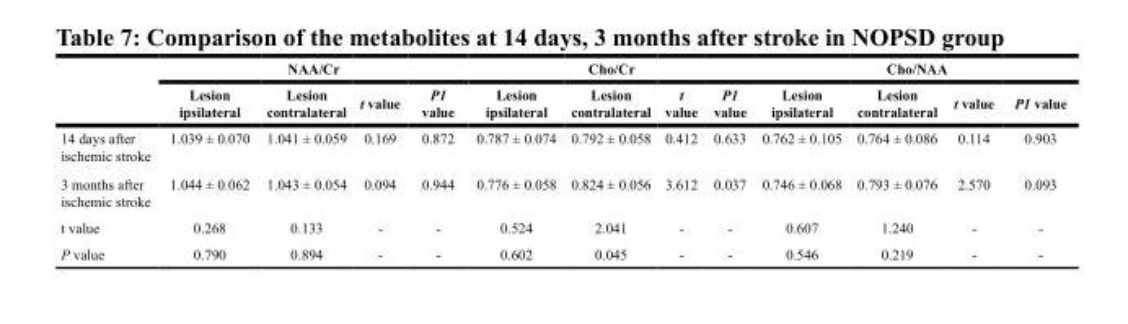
<table><thead><tr><td rowspan="2"></td><td colspan="4">NAA/Cr</td><td colspan="4">Cho/Cr</td><td colspan="4">Cho/NAA</td></tr><tr><td>Lesion ipsilateral</td><td>Lesion contralateral</td><td>t value</td><td>P1 value</td><td>Lesion ipsilateral</td><td>Lesion contralateral</td><td>t value</td><td>P1 value</td><td>Lesion ipsilateral</td><td>Lesion contralateral</td><td>t value</td><td>P1 value</td></tr></thead><tbody><tr><td>14 days after ischemic stroke</td><td>1.039 ± 0.070</td><td>1.041 ± 0.059</td><td>0.169</td><td>0.872</td><td>0.787 ± 0.074</td><td>0.792 ± 0.058</td><td>0.412</td><td>0.633</td><td>0.762 ± 0.105</td><td>0.764 ± 0.086</td><td>0.114</td><td>0.903</td></tr><tr><td>3 months after ischemic stroke</td><td>1.044 ± 0.062</td><td>1.043 ± 0.054</td><td>0.094</td><td>0.944</td><td>0.776 ± 0.058</td><td>0.824 ± 0.056</td><td>3.612</td><td>0.037</td><td>0.746 ± 0.068</td><td>0.793 ± 0.076</td><td>2.570</td><td>0.093</td></tr><tr><td>t value</td><td>0.268</td><td>0.133</td><td>-</td><td>-</td><td>0.524</td><td>2.041</td><td>-</td><td>-</td><td>0.607</td><td>1.240</td><td>-</td><td>-</td></tr><tr><td>P value</td><td>0.790</td><td>0.894</td><td>-</td><td>-</td><td>0.602</td><td>0.045</td><td>-</td><td>-</td><td>0.546</td><td>0.219</td><td>-</td><td>-</td></tr></tbody></table>